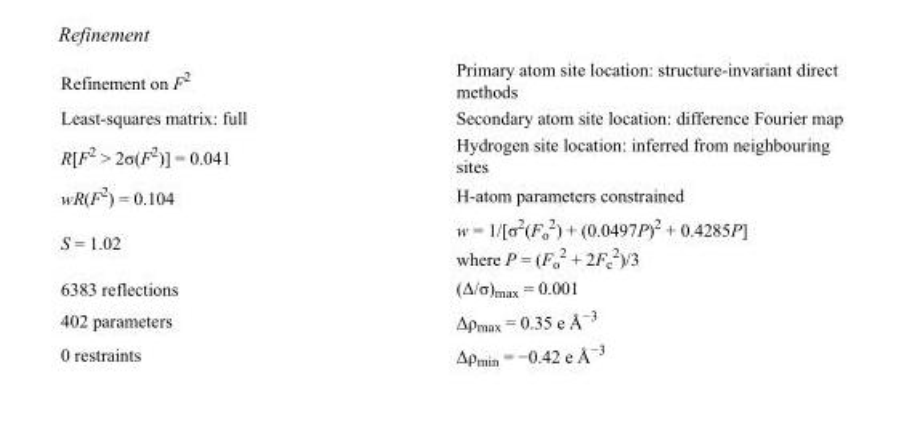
<table><tbody><tr><td>Refinement on F<sup>2</sup></td><td>Primary atom site location: structure-invariant direct methods</td></tr><tr><td>Least-squares matrix: full</td><td>Secondary atom site location: difference Fourier map</td></tr><tr><td>R[F<sup>2</sup> &gt; 2σ(F<sup>2</sup>)] = 0.041</td><td>Hydrogen site location: inferred from neighbouring sites</td></tr><tr><td>wR(F<sup>2</sup>) = 0.104</td><td>H-atom parameters constrained</td></tr><tr><td>S = 1.02</td><td>w = 1/[σ<sup>2</sup>(F<sub>o</sub> <sup>2</sup>) + (0.0497P)<sup>2</sup> + 0.4285P] where P = (F<sub>o</sub> <sup>2</sup> + 2F<sub>c</sub> <sup>2</sup>)/3</td></tr><tr><td>6383 reflections</td><td>(Δ/σ)<sub>max</sub> = 0.001</td></tr><tr><td>402 parameters</td><td>Δρ<sub>max</sub> = 0.35 e Å<sup>−3</sup></td></tr><tr><td>0 restraints</td><td>Δρ<sub>min</sub> = −0.42 e Å<sup>−3</sup></td></tr></tbody></table>